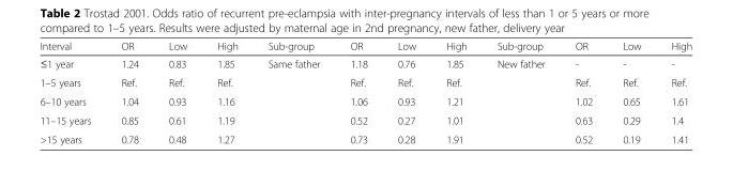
<table><thead><tr><td>Interval</td><td>OR</td><td>Low</td><td>High</td><td>Sub-group</td><td>OR</td><td>Low</td><td>High</td><td>Sub-group</td><td>OR</td><td>Low</td><td>High</td></tr></thead><tbody><tr><td>≤1 year</td><td>1.24</td><td>0.83</td><td>1.85</td><td rowspan="5">Same father</td><td>1.18</td><td>0.76</td><td>1.85</td><td rowspan="5">New father</td><td>-</td><td>-</td><td>-</td></tr><tr><td>1–5 years</td><td>Ref.</td><td>Ref.</td><td>Ref.</td><td>Ref.</td><td>Ref.</td><td>Ref.</td><td>Ref.</td><td>Ref.</td><td>Ref.</td></tr><tr><td>6–10 years</td><td>1.04</td><td>0.93</td><td>1.16</td><td>1.06</td><td>0.93</td><td>1.21</td><td>1.02</td><td>0.65</td><td>1.61</td></tr><tr><td>11–15 years</td><td>0.85</td><td>0.61</td><td>1.19</td><td>0.52</td><td>0.27</td><td>1.01</td><td>0.63</td><td>0.29</td><td>1.4</td></tr><tr><td>&gt;15 years</td><td>0.78</td><td>0.48</td><td>1.27</td><td>0.73</td><td>0.28</td><td>1.91</td><td>0.52</td><td>0.19</td><td>1.41</td></tr></tbody></table>